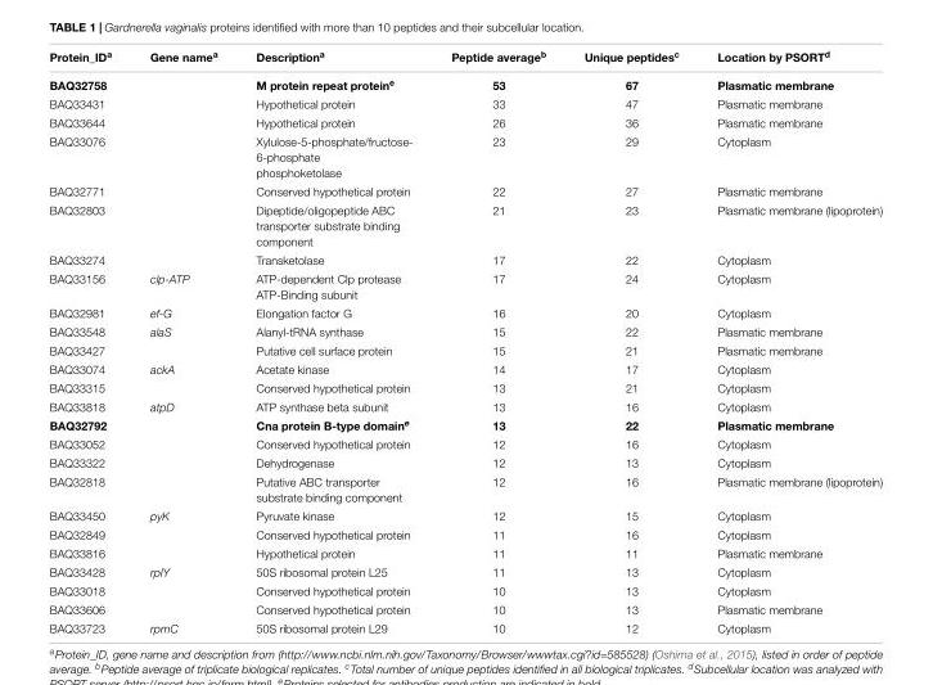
<table><thead><tr><td>Protein_ID<sup>a</sup></td><td>Gene name<sup>a</sup></td><td>Description<sup>a</sup></td><td>Peptide average<sup>b</sup></td><td>Unique peptides<sup>c</sup></td><td>Location by PSORT<sup>d</sup></td></tr></thead><tbody><tr><td>BAQ32758</td><td></td><td>M protein repeat protein<sup>e</sup></td><td>53</td><td>67</td><td>Plasmatic membrane</td></tr><tr><td>BAQ33431</td><td></td><td>Hypothetical protein</td><td>33</td><td>47</td><td>Plasmatic membrane</td></tr><tr><td>BAQ33644</td><td></td><td>Hypothetical protein</td><td>26</td><td>36</td><td>Plasmatic membrane</td></tr><tr><td>BAQ33076</td><td></td><td>Xylulose-5-phosphate/fructose- 6-phosphate phosphoketolase</td><td>23</td><td>29</td><td>Cytoplasm</td></tr><tr><td>BAQ32771</td><td></td><td>Conserved hypothetical protein</td><td>22</td><td>27</td><td>Plasmatic membrane</td></tr><tr><td>BAQ32803</td><td></td><td>Dipeptide/oligopeptide ABC transporter substrate binding component</td><td>21</td><td>23</td><td>Plasmatic membrane (lipoprotein)</td></tr><tr><td>BAQ33274</td><td></td><td>Transketolase</td><td>17</td><td>22</td><td>Cytoplasm</td></tr><tr><td>BAQ33156</td><td>clp-ATP</td><td>ATP-dependent Clp protease ATP-Binding subunit</td><td>17</td><td>24</td><td>Cytoplasm</td></tr><tr><td>BAQ32981</td><td>ef-G</td><td>Elongation factor G</td><td>16</td><td>20</td><td>Cytoplasm</td></tr><tr><td>BAQ33548</td><td>alaS</td><td>Alanyl-tRNA synthase</td><td>15</td><td>22</td><td>Plasmatic membrane</td></tr><tr><td>BAQ33427</td><td></td><td>Putative cell surface protein</td><td>15</td><td>21</td><td>Plasmatic membrane</td></tr><tr><td>BAQ33074</td><td>ackA</td><td>Acetate kinase</td><td>14</td><td>17</td><td>Cytoplasm</td></tr><tr><td>BAQ33315</td><td></td><td>Conserved hypothetical protein</td><td>13</td><td>21</td><td>Cytoplasm</td></tr><tr><td>BAQ33818</td><td>atpD</td><td>ATP synthase beta subunit</td><td>13</td><td>16</td><td>Cytoplasm</td></tr><tr><td>BAQ32792</td><td></td><td>Cna protein B-type domain<sup>e</sup></td><td>13</td><td>22</td><td>Plasmatic membrane</td></tr><tr><td>BAQ33052</td><td></td><td>Conserved hypothetical protein</td><td>12</td><td>16</td><td>Cytoplasm</td></tr><tr><td>BAQ33322</td><td></td><td>Dehydrogenase</td><td>12</td><td>13</td><td>Cytoplasm</td></tr><tr><td>BAQ32818</td><td></td><td>Putative ABC transporter substrate binding component</td><td>12</td><td>16</td><td>Plasmatic membrane (lipoprotein)</td></tr><tr><td>BAQ33450</td><td>pyK</td><td>Pyruvate kinase</td><td>12</td><td>15</td><td>Cytoplasm</td></tr><tr><td>BAQ32849</td><td></td><td>Conserved hypothetical protein</td><td>11</td><td>16</td><td>Cytoplasm</td></tr><tr><td>BAQ33816</td><td></td><td>Hypothetical protein</td><td>11</td><td>11</td><td>Plasmatic membrane</td></tr><tr><td>BAQ33428</td><td>rplY</td><td>50S ribosomal protein L25</td><td>11</td><td>13</td><td>Cytoplasm</td></tr><tr><td>BAQ33018</td><td></td><td>Conserved hypothetical protein</td><td>10</td><td>13</td><td>Cytoplasm</td></tr><tr><td>BAQ33606</td><td></td><td>Conserved hypothetical protein</td><td>10</td><td>13</td><td>Plasmatic membrane</td></tr><tr><td>BAQ33723</td><td>rpmC</td><td>50S ribosomal protein L29</td><td>10</td><td>12</td><td>Cytoplasm</td></tr></tbody></table>